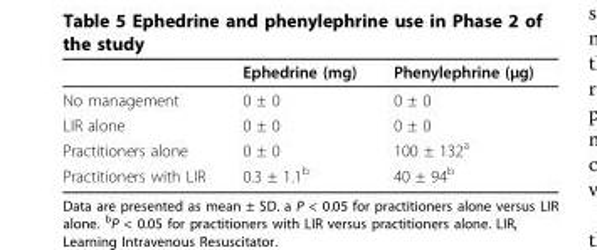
<table><thead><tr><td></td><td>Ephedrine (mg)</td><td>Phenylephrine (μg)</td></tr></thead><tbody><tr><td>No management</td><td>0 ± 0</td><td>0 ± 0</td></tr><tr><td>LIR alone</td><td>0 ± 0</td><td>0 ± 0</td></tr><tr><td>Practitioners alone</td><td>0 ± 0</td><td>100 ± 132<sup>a</sup></td></tr><tr><td>Practitioners with LIR</td><td>0.3 ± 1.1<sup>b</sup></td><td>40 ± 94<sup>b</sup></td></tr></tbody></table>